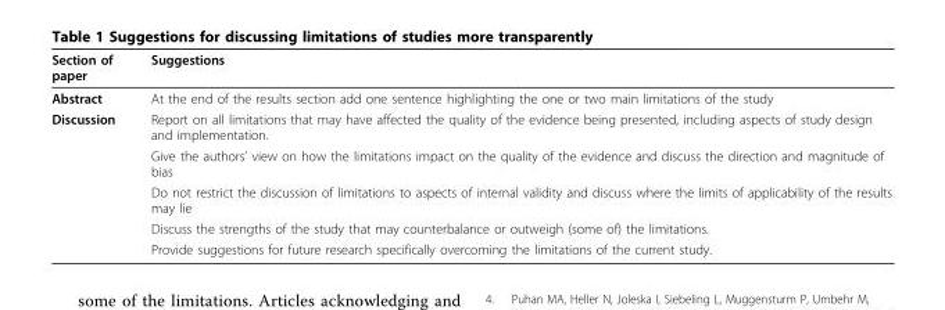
<table><thead><tr><td>Section of paper</td><td>Suggestions</td></tr></thead><tbody><tr><td>Abstract</td><td>At the end of the results section add one sentence highlighting the one or two main limitations of the study</td></tr><tr><td rowspan="5">Discussion</td><td>Report on all limitations that may have affected the quality of the evidence being presented, including aspects of study design and implementation.</td></tr><tr><td>Give the authors’ view on how the limitations impact on the quality of the evidence and discuss the direction and magnitude of bias</td></tr><tr><td>Do not restrict the discussion of limitations to aspects of internal validity and discuss where the limits of applicability of the results may lie</td></tr><tr><td>Discuss the strengths of the study that may counterbalance or outweigh (some of) the limitations.</td></tr><tr><td>Provide suggestions for future research specifically overcoming the limitations of the current study.</td></tr></tbody></table>